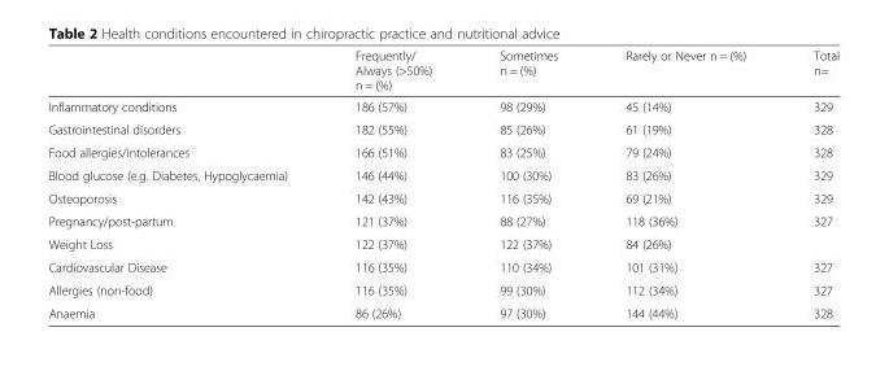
<table><thead><tr><td></td><td>Frequently/ Always (&gt;50%) n = (%)</td><td>Sometimes n = (%)</td><td>Rarely or Never n = (%)</td><td>Total n=</td></tr></thead><tbody><tr><td>Inflammatory conditions</td><td>186 (57%)</td><td>98 (29%)</td><td>45 (14%)</td><td>329</td></tr><tr><td>Gastrointestinal disorders</td><td>182 (55%)</td><td>85 (26%)</td><td>61 (19%)</td><td>328</td></tr><tr><td>Food allergies/intolerances</td><td>166 (51%)</td><td>83 (25%)</td><td>79 (24%)</td><td>328</td></tr><tr><td>Blood glucose (e.g. Diabetes, Hypoglycaemia)</td><td>146 (44%)</td><td>100 (30%)</td><td>83 (26%)</td><td>329</td></tr><tr><td>Osteoporosis</td><td>142 (43%)</td><td>116 (35%)</td><td>69 (21%)</td><td>329</td></tr><tr><td>Pregnancy/post-partum</td><td>121 (37%)</td><td>88 (27%)</td><td>118 (36%)</td><td>327</td></tr><tr><td>Weight Loss</td><td>122 (37%)</td><td>122 (37%)</td><td>84 (26%)</td><td></td></tr><tr><td>Cardiovascular Disease</td><td>116 (35%)</td><td>110 (34%)</td><td>101 (31%)</td><td>327</td></tr><tr><td>Allergies (non-food)</td><td>116 (35%)</td><td>99 (30%)</td><td>112 (34%)</td><td>327</td></tr><tr><td>Anaemia</td><td>86 (26%)</td><td>97 (30%)</td><td>144 (44%)</td><td>328</td></tr></tbody></table>